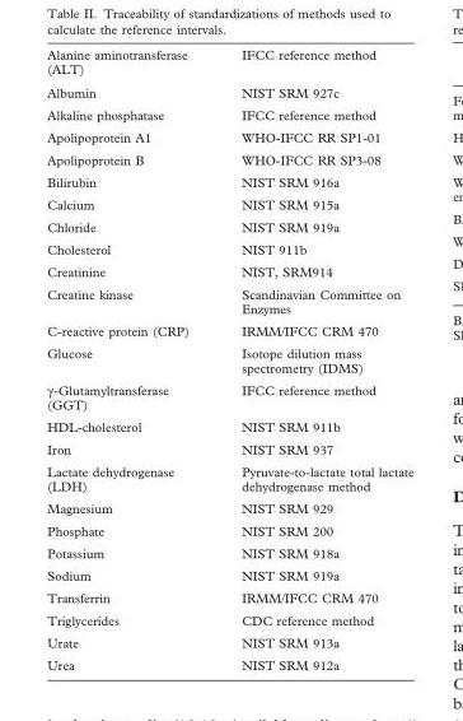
<table><thead><tr><td>Alanine aminotransferase (ALT)</td><td>IFCC reference method</td></tr></thead><tbody><tr><td>Albumin</td><td>NIST SRM 927c</td></tr><tr><td>Alkaline phosphatase</td><td>IFCC reference method</td></tr><tr><td>Apolipoprotein A1</td><td>WHO-IFCC RR SP1-01</td></tr><tr><td>Apolipoprotein B</td><td>WHO-IFCC RR SP3-08</td></tr><tr><td>Bilirubin</td><td>NIST SRM 916a</td></tr><tr><td>Calcium</td><td>NIST SRM 915a</td></tr><tr><td>Chloride</td><td>NIST SRM 919a</td></tr><tr><td>Cholesterol</td><td>NIST 911b</td></tr><tr><td>Creatinine</td><td>NIST, SRM914</td></tr><tr><td>Creatine kinase</td><td>Scandinavian Committee on Enzymes</td></tr><tr><td>C-reactive protein (CRP)</td><td>IRMM/IFCC CRM 470</td></tr><tr><td>Glucose</td><td>Isotope dilution mass spectrometry (IDMS)</td></tr><tr><td>γ-Glutamyltransferase (GGT)</td><td>IFCC reference method</td></tr><tr><td>HDL-cholesterol</td><td>NIST SRM 911b</td></tr><tr><td>Iron</td><td>NIST SRM 937</td></tr><tr><td>Lactate dehydrogenase (LDH)</td><td>Pyruvate-to-lactate total lactate dehydrogenase method</td></tr><tr><td>Magnesium</td><td>NIST SRM 929</td></tr><tr><td>Phosphate</td><td>NIST SRM 200</td></tr><tr><td>Potassium</td><td>NIST SRM 918a</td></tr><tr><td>Sodium</td><td>NIST SRM 919a</td></tr><tr><td>Transferrin</td><td>IRMM/IFCC CRM 470</td></tr><tr><td>Triglycerides</td><td>CDC reference method</td></tr><tr><td>Urate</td><td>NIST SRM 913a</td></tr><tr><td>Urea</td><td>NIST SRM 912a</td></tr></tbody></table>